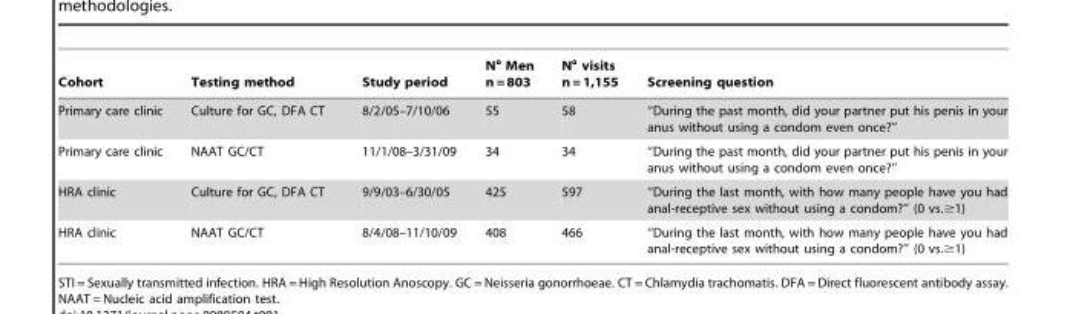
<table><thead><tr><td>Cohort</td><td>Testing method</td><td>Study period</td><td>N° Men n = 803</td><td>N° visits n = 1,155</td><td>Screening question</td></tr></thead><tbody><tr><td>Primary care clinic</td><td>Culture for GC, DFA CT</td><td>8/2/05–7/10/06</td><td>55</td><td>58</td><td>‘‘During the past month, did your partner put his penis in your anus without using a condom even once?’’</td></tr><tr><td>Primary care clinic</td><td>NAAT GC/CT</td><td>11/1/08–3/31/09</td><td>34</td><td>34</td><td>‘‘During the past month, did your partner put his penis in your anus without using a condom even once?’’</td></tr><tr><td>HRA clinic</td><td>Culture for GC, DFA CT</td><td>9/9/03–6/30/05</td><td>425</td><td>597</td><td>‘‘During the last month, with how many people have you had anal-receptive sex without using a condom?’’ (0 vs.$1)</td></tr><tr><td>HRA clinic</td><td>NAAT GC/CT</td><td>8/4/08–11/10/09</td><td>408</td><td>466</td><td>‘‘During the last month, with how many people have you had anal-receptive sex without using a condom?’’ (0 vs.$1)</td></tr></tbody></table>